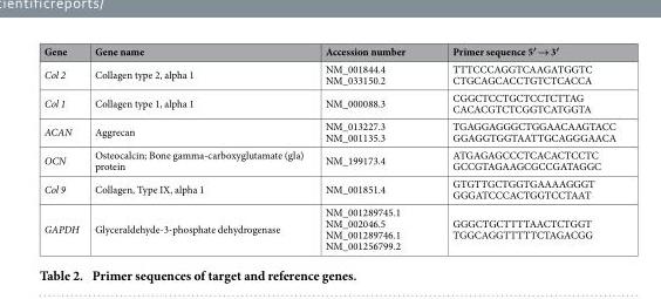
<table><thead><tr><td>Gene</td><td>Gene name</td><td>Accession number</td><td>Primer sequence 5′ → 3′</td></tr></thead><tbody><tr><td>Col 2</td><td>Collagen type 2, alpha 1</td><td>NM_001844.4 NM_033150.2</td><td>TTTCCCAGGTCAAGATGGTC CTGCAGCACCTGTCTCACCA</td></tr><tr><td>Col 1</td><td>Collagen type 1, alpha 1</td><td>NM_000088.3</td><td>CGGCTCCTGCTCCTCTTAG CACACGTCTCGGTCATGGTA</td></tr><tr><td>ACAN</td><td>Aggrecan</td><td>NM_013227.3 NM_001135.3</td><td>TGAGGAGGGCTGGAACAAGTACC GGAGGTGGTAATTGCAGGGAACA</td></tr><tr><td>OCN</td><td>Osteocalcin; Bone gamma-carboxyglutamate (gla) protein</td><td>NM_199173.4</td><td>ATGAGAGCCCTCACACTCCTC GCCGTAGAAGCGCCGATAGGC</td></tr><tr><td>Col 9</td><td>Collagen, Type IX, alpha 1</td><td>NM_001851.4</td><td>GTGTTGCTGGTGAAAAGGGT GGGATCCCACTGGTCCTAAT</td></tr><tr><td>GAPDH</td><td>Glyceraldehyde-3-phosphate dehydrogenase</td><td>NM_001289745.1 NM_002046.5 NM_001289746.1 NM_001256799.2</td><td>GGGCTGCTTTTAACTCTGGT TGGCAGGTTTTTCTAGACGG</td></tr></tbody></table>